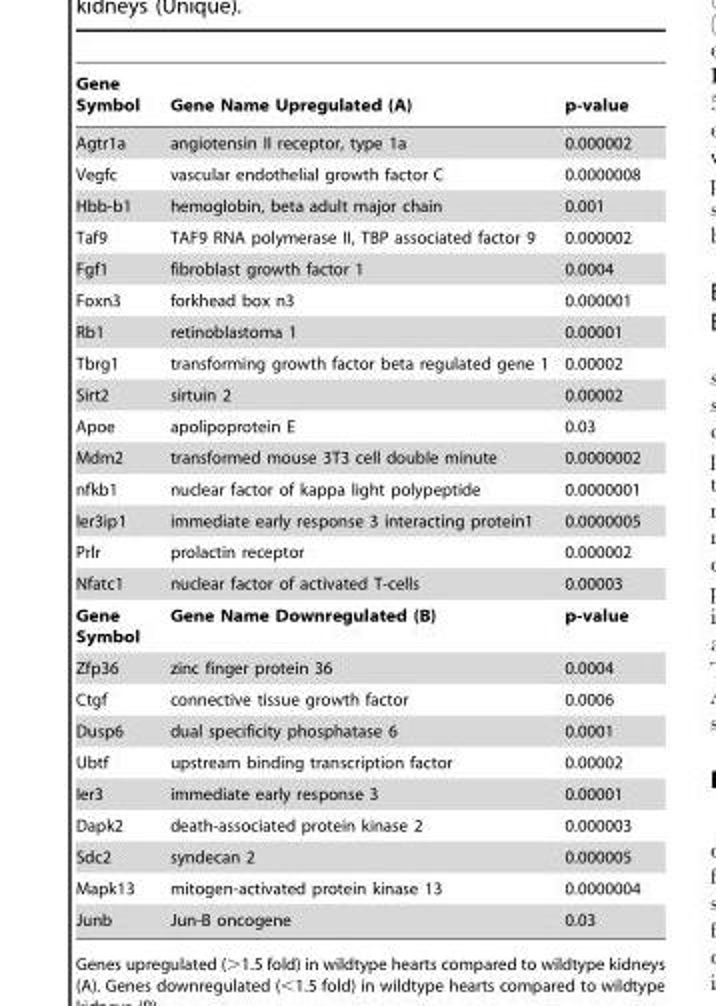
<table><thead><tr><td>Gene Symbol</td><td>Gene Name Upregulated (A)</td><td>p-value</td></tr></thead><tbody><tr><td>Agtr1a</td><td>angiotensin II receptor, type 1a</td><td>0.000002</td></tr><tr><td>Vegfc</td><td>vascular endothelial growth factor C</td><td>0.0000008</td></tr><tr><td>Hbb-b1</td><td>hemoglobin, beta adult major chain</td><td>0.001</td></tr><tr><td>Taf9</td><td>TAF9 RNA polymerase II, TBP associated factor 9</td><td>0.000002</td></tr><tr><td>Fgf1</td><td>fibroblast growth factor 1</td><td>0.0004</td></tr><tr><td>Foxn3</td><td>forkhead box n3</td><td>0.000001</td></tr><tr><td>Rb1</td><td>retinoblastoma 1</td><td>0.00001</td></tr><tr><td>Tbrg1</td><td>transforming growth factor beta regulated gene 1</td><td>0.00002</td></tr><tr><td>Sirt2</td><td>sirtuin 2</td><td>0.00002</td></tr><tr><td>Apoe</td><td>apolipoprotein E</td><td>0.03</td></tr><tr><td>Mdm2</td><td>transformed mouse 3T3 cell double minute</td><td>0.0000002</td></tr><tr><td>nfkb1</td><td>nuclear factor of kappa light polypeptide</td><td>0.0000001</td></tr><tr><td>Ier3ip1</td><td>immediate early response 3 interacting protein1</td><td>0.0000005</td></tr><tr><td>Prlr</td><td>prolactin receptor</td><td>0.000002</td></tr><tr><td>Nfatc1</td><td>nuclear factor of activated T-cells</td><td>0.00003</td></tr><tr><td>Gene Symbol</td><td>Gene Name Downregulated (B)</td><td>p-value</td></tr><tr><td>Zfp36</td><td>zinc finger protein 36</td><td>0.0004</td></tr><tr><td>Ctgf</td><td>connective tissue growth factor</td><td>0.0006</td></tr><tr><td>Dusp6</td><td>dual specificity phosphatase 6</td><td>0.0001</td></tr><tr><td>Ubtf</td><td>upstream binding transcription factor</td><td>0.00002</td></tr><tr><td>Ier3</td><td>immediate early response 3</td><td>0.00001</td></tr><tr><td>Dapk2</td><td>death-associated protein kinase 2</td><td>0.000003</td></tr><tr><td>Sdc2</td><td>syndecan 2</td><td>0.000005</td></tr><tr><td>Mapk13</td><td>mitogen-activated protein kinase 13</td><td>0.0000004</td></tr><tr><td>Junb</td><td>Jun-B oncogene</td><td>0.03</td></tr></tbody></table>